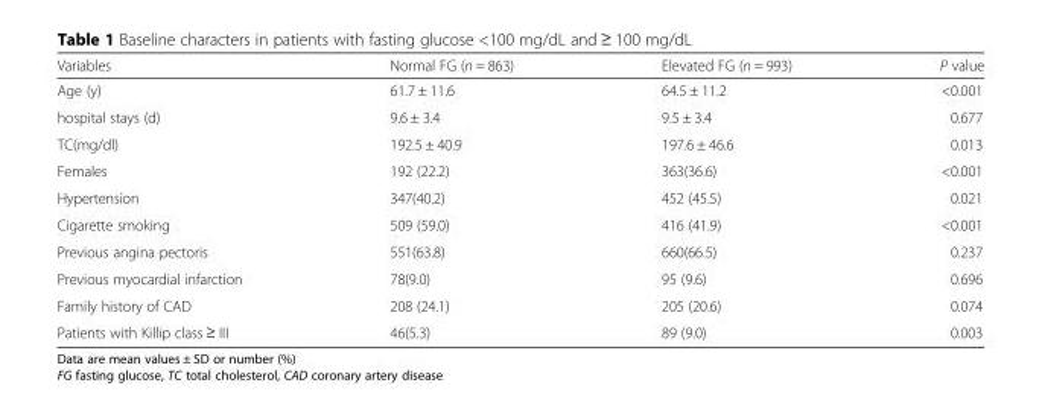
<table><thead><tr><td>Variables</td><td>Normal FG (n = 863)</td><td>Elevated FG (n = 993)</td><td>P value</td></tr></thead><tbody><tr><td>Age (y)</td><td>61.7 ± 11.6</td><td>64.5 ± 11.2</td><td>&lt;0.001</td></tr><tr><td>hospital stays (d)</td><td>9.6 ± 3.4</td><td>9.5 ± 3.4</td><td>0.677</td></tr><tr><td>TC(mg/dl)</td><td>192.5 ± 40.9</td><td>197.6 ± 46.6</td><td>0.013</td></tr><tr><td>Females</td><td>192 (22.2)</td><td>363(36.6)</td><td>&lt;0.001</td></tr><tr><td>Hypertension</td><td>347(40.2)</td><td>452 (45.5)</td><td>0.021</td></tr><tr><td>Cigarette smoking</td><td>509 (59.0)</td><td>416 (41.9)</td><td>&lt;0.001</td></tr><tr><td>Previous angina pectoris</td><td>551(63.8)</td><td>660(66.5)</td><td>0.237</td></tr><tr><td>Previous myocardial infarction</td><td>78(9.0)</td><td>95 (9.6)</td><td>0.696</td></tr><tr><td>Family history of CAD</td><td>208 (24.1)</td><td>205 (20.6)</td><td>0.074</td></tr><tr><td>Patients with Killip class ≥ III</td><td>46(5.3)</td><td>89 (9.0)</td><td>0.003</td></tr></tbody></table>